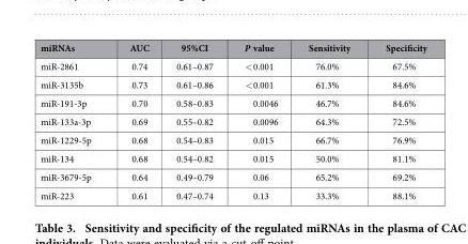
<table><thead><tr><td>miRNAs</td><td>AUC</td><td>95%CI</td><td>P value</td><td>Sensitivity</td><td>Specificity</td></tr></thead><tbody><tr><td>miR-2861</td><td>0.74</td><td>0.61–0.87</td><td>&lt; 0.001</td><td>76.0%</td><td>67.5%</td></tr><tr><td>miR-3135b</td><td>0.73</td><td>0.61–0.86</td><td>&lt; 0.001</td><td>61.3%</td><td>84.6%</td></tr><tr><td>miR-191-3p</td><td>0.70</td><td>0.58–0.83</td><td>0.0046</td><td>46.7%</td><td>84.6%</td></tr><tr><td>miR-133a-3p</td><td>0.69</td><td>0.55–0.82</td><td>0.0096</td><td>64.3%</td><td>72.5%</td></tr><tr><td>miR-1229-5p</td><td>0.68</td><td>0.54–0.83</td><td>0.015</td><td>66.7%</td><td>76.9%</td></tr><tr><td>miR-134</td><td>0.68</td><td>0.54–0.82</td><td>0.015</td><td>50.0%</td><td>81.1%</td></tr><tr><td>miR-3679-5p</td><td>0.64</td><td>0.49–0.79</td><td>0.06</td><td>65.2%</td><td>69.2%</td></tr><tr><td>miR-223</td><td>0.61</td><td>0.47–0.74</td><td>0.13</td><td>33.3%</td><td>88.1%</td></tr></tbody></table>